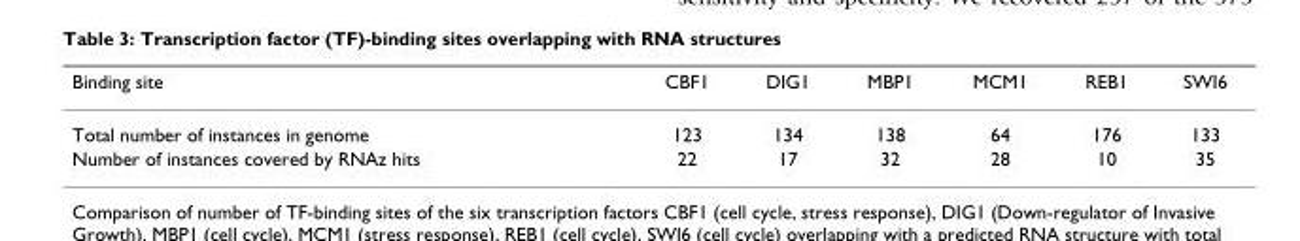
<table><thead><tr><td>Binding site</td><td>CBF1</td><td>DIG1</td><td>MBP1</td><td>MCM1</td><td>REB1</td><td>SWI6</td></tr></thead><tbody><tr><td>Total number of instances in genome</td><td>123</td><td>134</td><td>138</td><td>64</td><td>176</td><td>133</td></tr><tr><td>Number of instances covered by RNAz hits</td><td>22</td><td>17</td><td>32</td><td>28</td><td>10</td><td>35</td></tr></tbody></table>